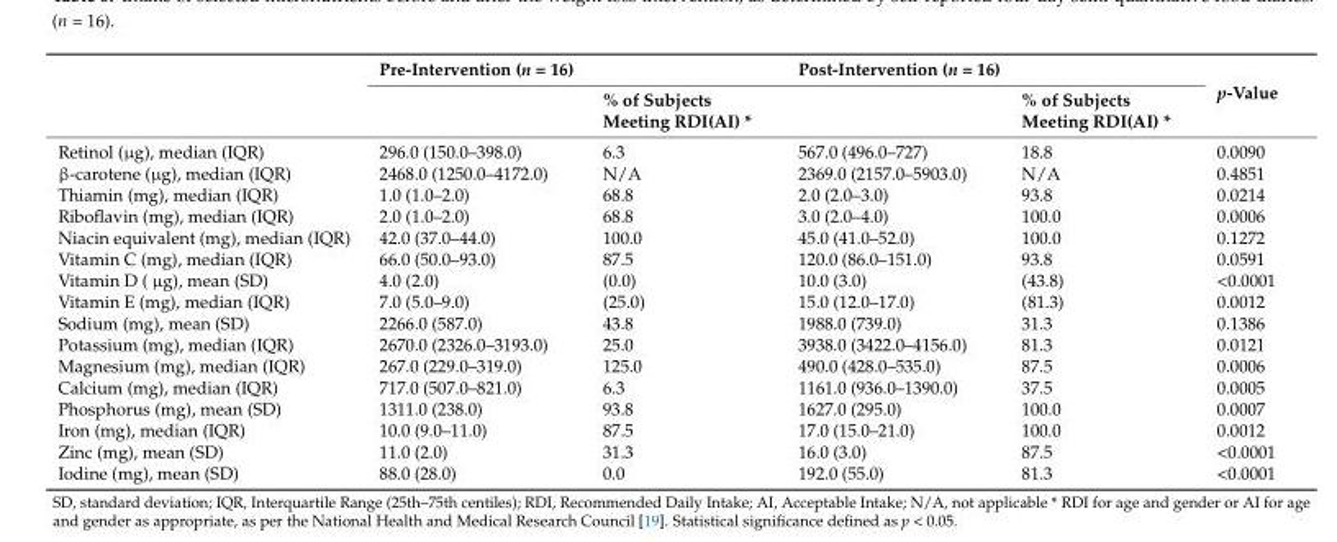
<table><thead><tr><td rowspan="2"></td><td colspan="2">Pre-Intervention (n = 16)</td><td colspan="2">Post-Intervention (n = 16)</td><td rowspan="2">p-Value</td></tr><tr><td></td><td>% of Subjects Meeting RDI(AI) *</td><td></td><td>% of Subjects Meeting RDI(AI) *</td></tr></thead><tbody><tr><td>Retinol (µg), median (IQR)</td><td>296.0 (150.0–398.0)</td><td>6.3</td><td>567.0 (496.0–727)</td><td>18.8</td><td>0.0090</td></tr><tr><td>β-carotene (µg), median (IQR)</td><td>2468.0 (1250.0–4172.0)</td><td>N/A</td><td>2369.0 (2157.0–5903.0)</td><td>N/A</td><td>0.4851</td></tr><tr><td>Thiamin (mg), median (IQR)</td><td>1.0 (1.0–2.0)</td><td>68.8</td><td>2.0 (2.0–3.0)</td><td>93.8</td><td>0.0214</td></tr><tr><td>Riboflavin (mg), median (IQR)</td><td>2.0 (1.0–2.0)</td><td>68.8</td><td>3.0 (2.0–4.0)</td><td>100.0</td><td>0.0006</td></tr><tr><td>Niacin equivalent (mg), median (IQR)</td><td>42.0 (37.0–44.0)</td><td>100.0</td><td>45.0 (41.0–52.0)</td><td>100.0</td><td>0.1272</td></tr><tr><td>Vitamin C (mg), median (IQR)</td><td>66.0 (50.0–93.0)</td><td>87.5</td><td>120.0 (86.0–151.0)</td><td>93.8</td><td>0.0591</td></tr><tr><td>Vitamin D ( µg), mean (SD)</td><td>4.0 (2.0)</td><td>(0.0)</td><td>10.0 (3.0)</td><td>(43.8)</td><td>&lt;0.0001</td></tr><tr><td>Vitamin E (mg), median (IQR)</td><td>7.0 (5.0–9.0)</td><td>(25.0)</td><td>15.0 (12.0–17.0)</td><td>(81.3)</td><td>0.0012</td></tr><tr><td>Sodium (mg), mean (SD)</td><td>2266.0 (587.0)</td><td>43.8</td><td>1988.0 (739.0)</td><td>31.3</td><td>0.1386</td></tr><tr><td>Potassium (mg), median (IQR)</td><td>2670.0 (2326.0–3193.0)</td><td>25.0</td><td>3938.0 (3422.0–4156.0)</td><td>81.3</td><td>0.0121</td></tr><tr><td>Magnesium (mg), median (IQR)</td><td>267.0 (229.0–319.0)</td><td>125.0</td><td>490.0 (428.0–535.0)</td><td>87.5</td><td>0.0006</td></tr><tr><td>Calcium (mg), median (IQR)</td><td>717.0 (507.0–821.0)</td><td>6.3</td><td>1161.0 (936.0–1390.0)</td><td>37.5</td><td>0.0005</td></tr><tr><td>Phosphorus (mg), mean (SD)</td><td>1311.0 (238.0)</td><td>93.8</td><td>1627.0 (295.0)</td><td>100.0</td><td>0.0007</td></tr><tr><td>Iron (mg), median (IQR)</td><td>10.0 (9.0–11.0)</td><td>87.5</td><td>17.0 (15.0–21.0)</td><td>100.0</td><td>0.0012</td></tr><tr><td>Zinc (mg), mean (SD)</td><td>11.0 (2.0)</td><td>31.3</td><td>16.0 (3.0)</td><td>87.5</td><td>&lt;0.0001</td></tr><tr><td>Iodine (mg), mean (SD)</td><td>88.0 (28.0)</td><td>0.0</td><td>192.0 (55.0)</td><td>81.3</td><td>&lt;0.0001</td></tr></tbody></table>